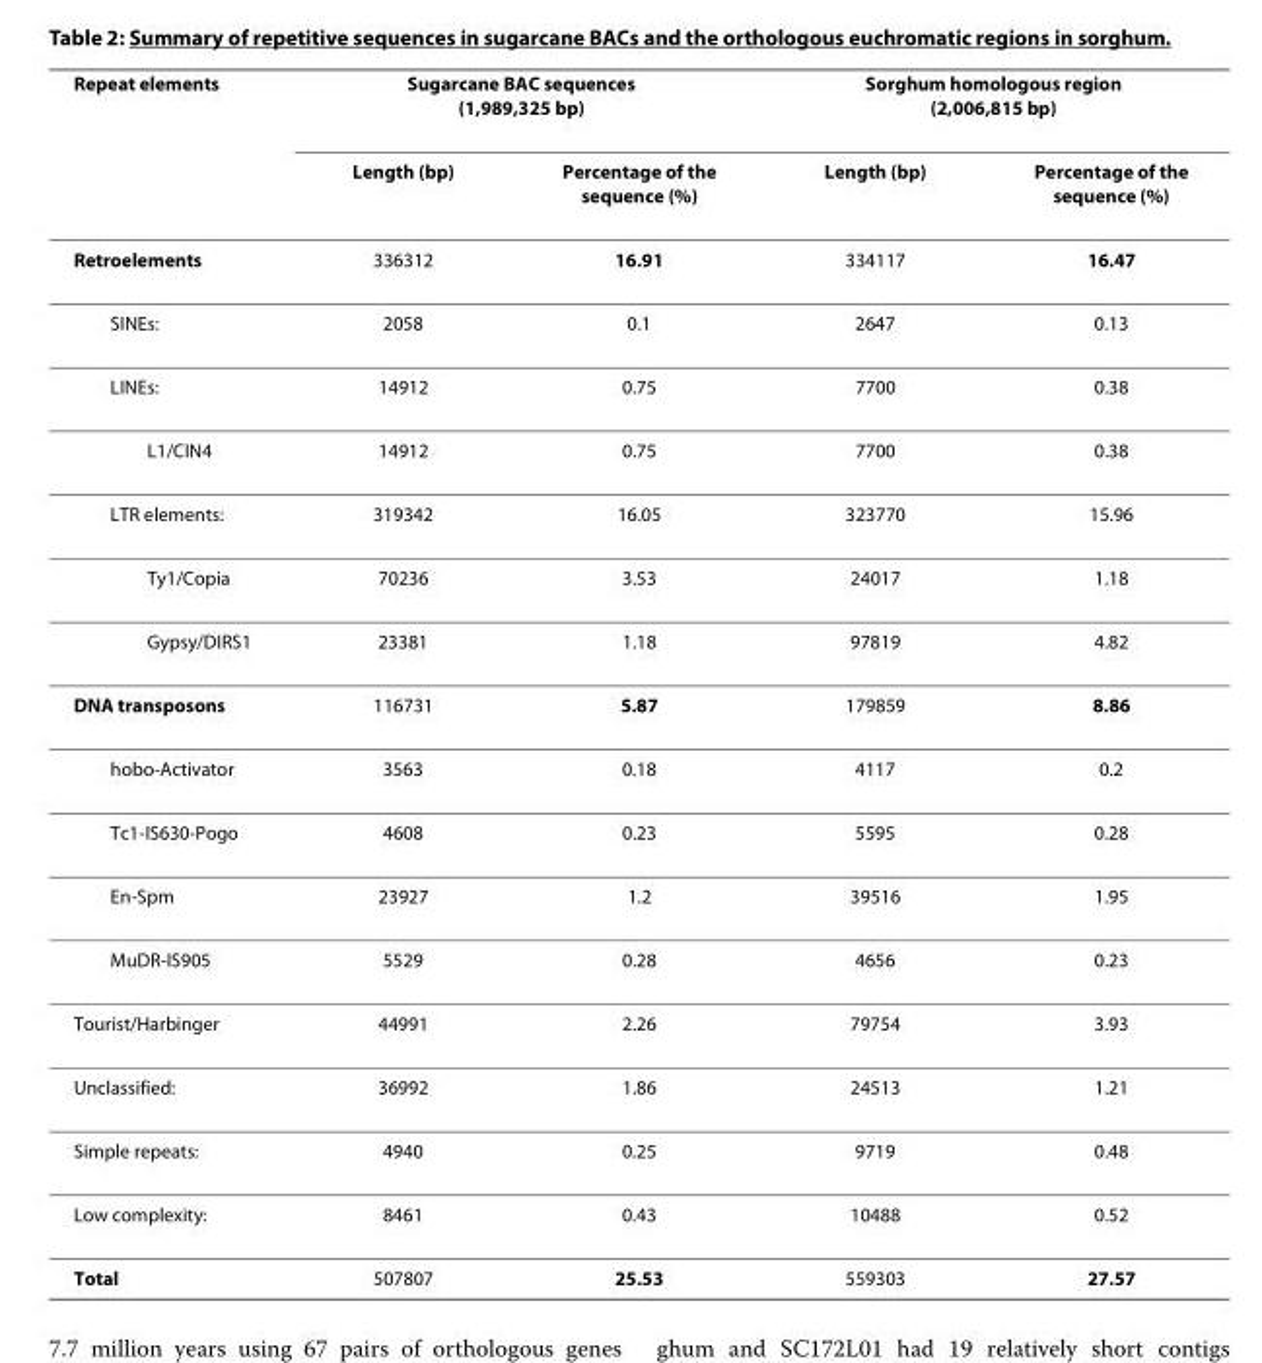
<table><thead><tr><td rowspan="2">Repeat elements</td><td colspan="2">Sugarcane BAC sequences (1,989,325 bp)</td><td colspan="2">Sorghum homologous region (2,006,815 bp)</td></tr><tr><td>Length (bp)</td><td>Percentage of the sequence (%)</td><td>Length (bp)</td><td>Percentage of the sequence (%)</td></tr></thead><tbody><tr><td>Retroelements</td><td>336312</td><td>16.91</td><td>334117</td><td>16.47</td></tr><tr><td>SINEs:</td><td>2058</td><td>0.1</td><td>2647</td><td>0.13</td></tr><tr><td>LINEs:</td><td>14912</td><td>0.75</td><td>7700</td><td>0.38</td></tr><tr><td>L1/CIN4</td><td>14912</td><td>0.75</td><td>7700</td><td>0.38</td></tr><tr><td>LTR elements:</td><td>319342</td><td>16.05</td><td>323770</td><td>15.96</td></tr><tr><td>Ty1/Copia</td><td>70236</td><td>3.53</td><td>24017</td><td>1.18</td></tr><tr><td>Gypsy/DIRS1</td><td>23381</td><td>1.18</td><td>97819</td><td>4.82</td></tr><tr><td>DNA transposons</td><td>116731</td><td>5.87</td><td>179859</td><td>8.86</td></tr><tr><td>hobo-Activator</td><td>3563</td><td>0.18</td><td>4117</td><td>0.2</td></tr><tr><td>Tc1-IS630-Pogo</td><td>4608</td><td>0.23</td><td>5595</td><td>0.28</td></tr><tr><td>En-Spm</td><td>23927</td><td>1.2</td><td>39516</td><td>1.95</td></tr><tr><td>MuDR-IS905</td><td>5529</td><td>0.28</td><td>4656</td><td>0.23</td></tr><tr><td>Tourist/Harbinger</td><td>44991</td><td>2.26</td><td>79754</td><td>3.93</td></tr><tr><td>Unclassified:</td><td>36992</td><td>1.86</td><td>24513</td><td>1.21</td></tr><tr><td>Simple repeats:</td><td>4940</td><td>0.25</td><td>9719</td><td>0.48</td></tr><tr><td>Low complexity:</td><td>8461</td><td>0.43</td><td>10488</td><td>0.52</td></tr><tr><td>Total</td><td>507807</td><td>25.53</td><td>559303</td><td>27.57</td></tr></tbody></table>